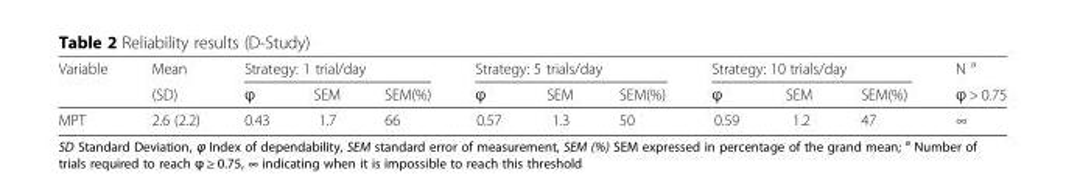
<table><thead><tr><td rowspan="2">Variable</td><td rowspan="2">Mean (SD)</td><td colspan="3">Strategy: 1 trial/day</td><td colspan="3">Strategy: 5 trials/day</td><td colspan="3">Strategy: 10 trials/day</td><td rowspan="2">N <sup>a</sup> ϕ &gt; 0.75</td></tr><tr><td>ϕ</td><td>SEM</td><td>SEM(%)</td><td>ϕ</td><td>SEM</td><td>SEM(%)</td><td>ϕ</td><td>SEM</td><td>SEM(%)</td></tr></thead><tbody><tr><td>MPT</td><td>2.6 (2.2)</td><td>0.43</td><td>1.7</td><td>66</td><td>0.57</td><td>1.3</td><td>50</td><td>0.59</td><td>1.2</td><td>47</td><td>∞</td></tr></tbody></table>